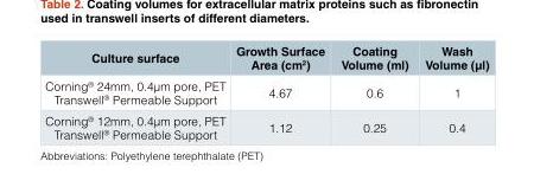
<table><thead><tr><td>Culture surface</td><td>Growth Surface Area (cm<sup>2</sup>)</td><td>Coating Volume (ml)</td><td>Wash Volume (μl)</td></tr></thead><tbody><tr><td>Corning<sup>®</sup> 24mm, 0.4μm pore, PET Transwell<sup>®</sup> Permeable Support</td><td>4.67</td><td>0.6</td><td>1</td></tr><tr><td>Corning<sup>®</sup> 12mm, 0.4μm pore, PET Transwell<sup>®</sup> Permeable Support</td><td>1.12</td><td>0.25</td><td>0.4</td></tr></tbody></table>